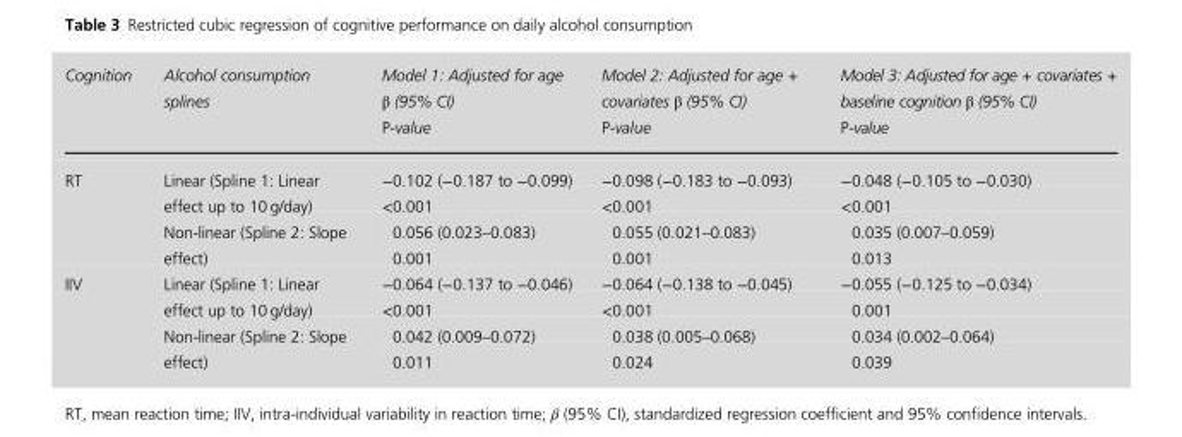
<table><thead><tr><td>Cognition</td><td>Alcohol consumption splines</td><td>Model 1: Adjusted for age β (95% CI) P-value</td><td>Model 2: Adjusted for age + covariates β (95% CI) P-value</td><td>Model 3: Adjusted for age + covariates + baseline cognition β (95% CI) P-value</td></tr></thead><tbody><tr><td rowspan="4">RT</td><td rowspan="2">Linear (Spline 1: Linear effect up to 10 g/day)</td><td>−0.102 (−0.187 to −0.099)</td><td>−0.098 (−0.183 to −0.093)</td><td>−0.048 (−0.105 to −0.030)</td></tr><tr><td>&lt;0.001</td><td>&lt;0.001</td><td>&lt;0.001</td></tr><tr><td rowspan="2">Non-linear (Spline 2: Slope effect)</td><td>0.056 (0.023–0.083)</td><td>0.055 (0.021–0.083)</td><td>0.035 (0.007–0.059)</td></tr><tr><td>0.001</td><td>0.001</td><td>0.013</td></tr><tr><td rowspan="4">IIV</td><td rowspan="2">Linear (Spline 1: Linear effect up to 10 g/day)</td><td>−0.064 (−0.137 to −0.046)</td><td>−0.064 (−0.138 to −0.045)</td><td>−0.055 (−0.125 to −0.034)</td></tr><tr><td>&lt;0.001</td><td>&lt;0.001</td><td>0.001</td></tr><tr><td rowspan="2">Non-linear (Spline 2: Slope effect)</td><td>0.042 (0.009–0.072)</td><td>0.038 (0.005–0.068)</td><td>0.034 (0.002–0.064)</td></tr><tr><td>0.011</td><td>0.024</td><td>0.039</td></tr></tbody></table>